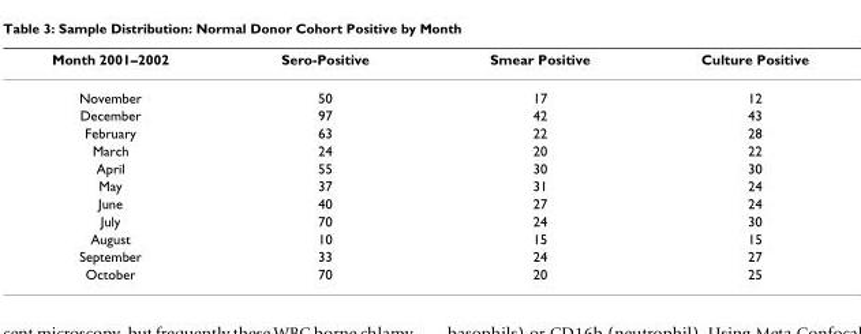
<table><thead><tr><td>Month 2001–2002</td><td>Sero-Positive</td><td>Smear Positive</td><td>Culture Positive</td></tr></thead><tbody><tr><td>November</td><td>50</td><td>17</td><td>12</td></tr><tr><td>December</td><td>97</td><td>42</td><td>43</td></tr><tr><td>February</td><td>63</td><td>22</td><td>28</td></tr><tr><td>March</td><td>24</td><td>20</td><td>22</td></tr><tr><td>April</td><td>55</td><td>30</td><td>30</td></tr><tr><td>May</td><td>37</td><td>31</td><td>24</td></tr><tr><td>June</td><td>40</td><td>27</td><td>24</td></tr><tr><td>July</td><td>70</td><td>24</td><td>30</td></tr><tr><td>August</td><td>10</td><td>15</td><td>15</td></tr><tr><td>September</td><td>33</td><td>24</td><td>27</td></tr><tr><td>October</td><td>70</td><td>20</td><td>25</td></tr></tbody></table>